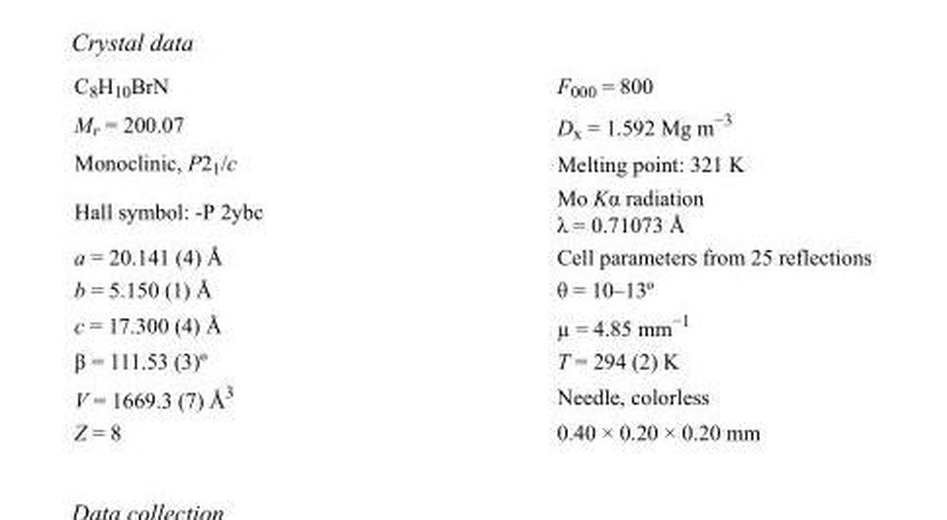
<table><tbody><tr><td>C<sub>8</sub>H<sub>10</sub>BrN</td><td>F<sub>000</sub> = 800</td></tr><tr><td>M<sub>r</sub> = 200.07</td><td>D<sub>x</sub> = 1.592 Mg m<sup>−3</sup></td></tr><tr><td>Monoclinic, P2<sub>1</sub>/c</td><td>Melting point: 321 K</td></tr><tr><td>Hall symbol: -P 2ybc</td><td>Mo Kα radiation λ = 0.71073 Å</td></tr><tr><td>a = 20.141 (4) Å</td><td>Cell parameters from 25 reflections</td></tr><tr><td>b = 5.150 (1) Å</td><td>θ = 10–13º</td></tr><tr><td>c = 17.300 (4) Å</td><td>µ = 4.85 mm<sup>−1</sup></td></tr><tr><td>β = 111.53 (3)º</td><td>T = 294 (2) K</td></tr><tr><td>V = 1669.3 (7) Å<sup>3</sup></td><td>Needle, colorless</td></tr><tr><td>Z = 8</td><td>0.40 × 0.20 × 0.20 mm</td></tr></tbody></table>